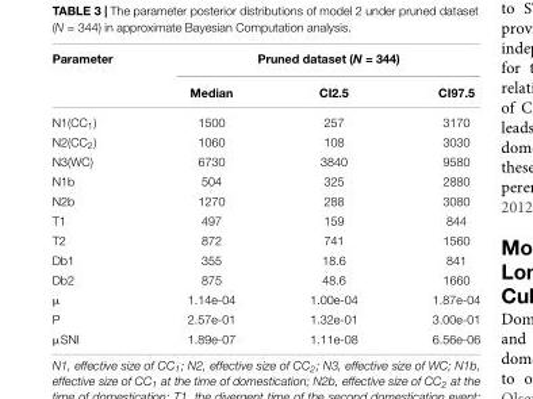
<table><thead><tr><td rowspan="2">Parameter</td><td colspan="3">Pruned dataset (N = 344)</td></tr><tr><td>Median</td><td>CI2.5</td><td>CI97.5</td></tr></thead><tbody><tr><td>N1(CC<sub>1</sub>)</td><td>1500</td><td>257</td><td>3170</td></tr><tr><td>N2(CC<sub>2</sub>)</td><td>1060</td><td>108</td><td>3030</td></tr><tr><td>N3(WC)</td><td>6730</td><td>3840</td><td>9580</td></tr><tr><td>N1b</td><td>504</td><td>325</td><td>2880</td></tr><tr><td>N2b</td><td>1270</td><td>288</td><td>3080</td></tr><tr><td>T1</td><td>497</td><td>159</td><td>844</td></tr><tr><td>T2</td><td>872</td><td>741</td><td>1560</td></tr><tr><td>Db1</td><td>355</td><td>18.6</td><td>841</td></tr><tr><td>Db2</td><td>875</td><td>48.6</td><td>1660</td></tr><tr><td>µ</td><td>1.14e-04</td><td>1.00e-04</td><td>1.87e-04</td></tr><tr><td>P</td><td>2.57e-01</td><td>1.32e-01</td><td>3.00e-01</td></tr><tr><td>µSNI</td><td>1.89e-07</td><td>1.11e-08</td><td>6.56e-06</td></tr></tbody></table>